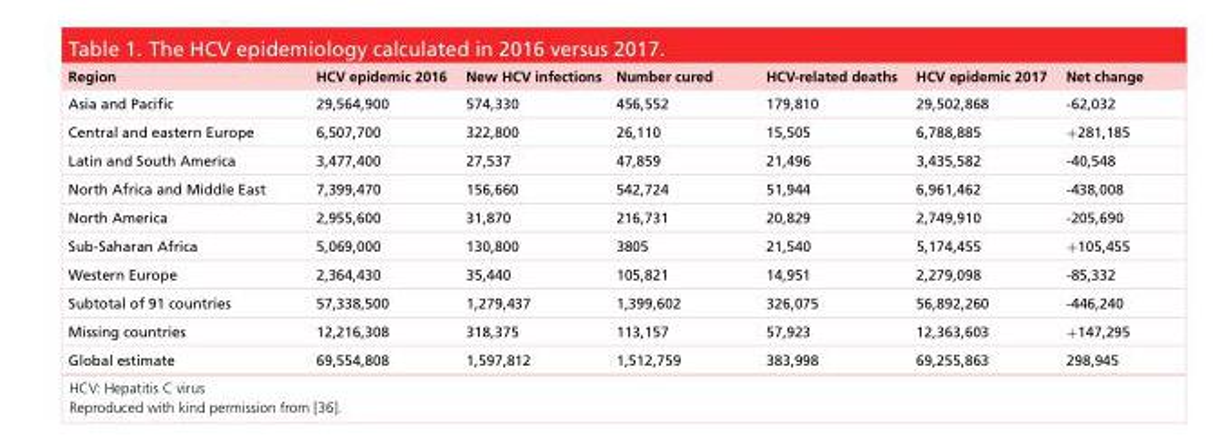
<table><thead><tr><td>Region</td><td>HCV epidemic 2016</td><td>New HCV infections</td><td>Number cured</td><td>HCV-related deaths</td><td>HCV epidemic 2017</td><td>Net change</td></tr></thead><tbody><tr><td>Asia and Pacific</td><td>29,564,900</td><td>574,330</td><td>456,552</td><td>179,810</td><td>29,502,868</td><td>-62,032</td></tr><tr><td>Central and eastern Europe</td><td>6,507,700</td><td>322,800</td><td>26,110</td><td>15,505</td><td>6,788,885</td><td>+281,185</td></tr><tr><td>Latin and South America</td><td>3,477,400</td><td>27,537</td><td>47,859</td><td>21,496</td><td>3,435,582</td><td>-40,548</td></tr><tr><td>North Africa and Middle East</td><td>7,399,470</td><td>156,660</td><td>542,724</td><td>51,944</td><td>6,961,462</td><td>-438,008</td></tr><tr><td>North America</td><td>2,955,600</td><td>31,870</td><td>216,731</td><td>20,829</td><td>2,749,910</td><td>-205,690</td></tr><tr><td>Sub-Saharan Africa</td><td>5,069,000</td><td>130,800</td><td>3805</td><td>21,540</td><td>5,174,455</td><td>+105,455</td></tr><tr><td>Western Europe</td><td>2,364,430</td><td>35,440</td><td>105,821</td><td>14,951</td><td>2,279,098</td><td>-85,332</td></tr><tr><td>Subtotal of 91 countries</td><td>57,338,500</td><td>1,279,437</td><td>1,399,602</td><td>326,075</td><td>56,892,260</td><td>-446,240</td></tr><tr><td>Missing countries</td><td>12,216,308</td><td>318,375</td><td>113,157</td><td>57,923</td><td>12,363,603</td><td>+147,295</td></tr><tr><td>Global estimate</td><td>69,554,808</td><td>1,597,812</td><td>1,512,759</td><td>383,998</td><td>69,255,863</td><td>298,945</td></tr></tbody></table>